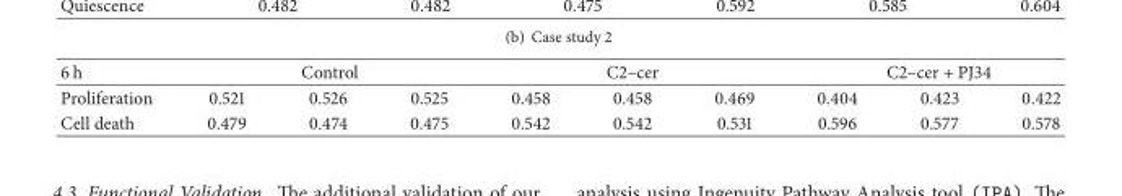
<table><thead><tr><td rowspan="2">6 h Proliferation</td><td colspan="3">Control</td><td colspan="3">C2–cer</td><td colspan="3">C2–cer + PJ34</td></tr><tr><td>0.521</td><td>0.526</td><td>0.525</td><td>0.458</td><td>0.458</td><td>0.469</td><td>0.404</td><td>0.423</td><td>0.422</td></tr></thead><tbody><tr><td>Cell death</td><td>0.479</td><td>0.474</td><td>0.475</td><td>0.542</td><td>0.542</td><td>0.531</td><td>0.596</td><td>0.577</td><td>0.578</td></tr></tbody></table>